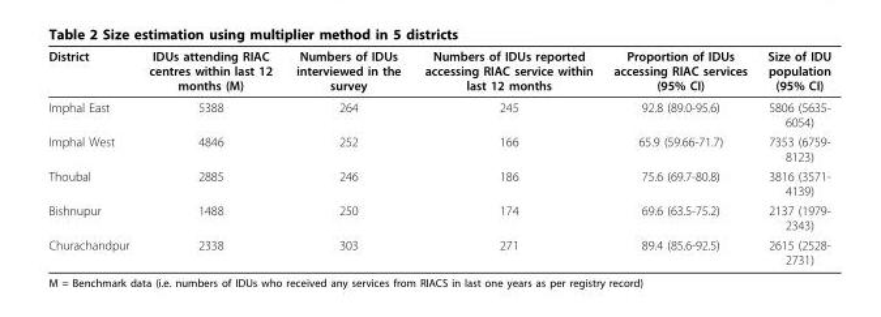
<table><thead><tr><td>District</td><td>IDUs attending RIAC centres within last 12 months (M)</td><td>Numbers of IDUs interviewed in the survey</td><td>Numbers of IDUs reported accessing RIAC service within last 12 months</td><td>Proportion of IDUs accessing RIAC services (95% CI)</td><td>Size of IDU population (95% CI)</td></tr></thead><tbody><tr><td>Imphal East</td><td>5388</td><td>264</td><td>245</td><td>92.8 (89.0-95.6)</td><td>5806 (5635- 6054)</td></tr><tr><td>Imphal West</td><td>4846</td><td>252</td><td>166</td><td>65.9 (59.66-71.7)</td><td>7353 (6759- 8123)</td></tr><tr><td>Thoubal</td><td>2885</td><td>246</td><td>186</td><td>75.6 (69.7-80.8)</td><td>3816 (3571- 4139)</td></tr><tr><td>Bishnupur</td><td>1488</td><td>250</td><td>174</td><td>69.6 (63.5-75.2)</td><td>2137 (1979- 2343)</td></tr><tr><td>Churachandpur</td><td>2338</td><td>303</td><td>271</td><td>89.4 (85.6-92.5)</td><td>2615 (2528- 2731)</td></tr></tbody></table>